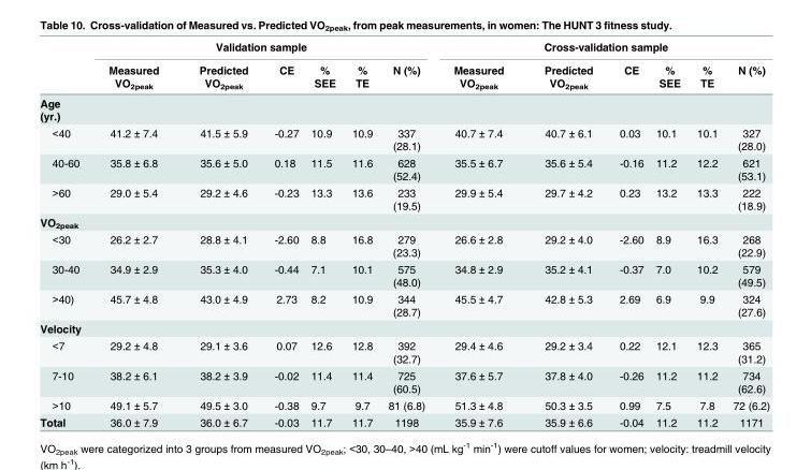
<table><thead><tr><td rowspan="2"></td><td colspan="6">Validation sample</td><td colspan="6">Cross-validation sample</td></tr><tr><td>Measured VO<sub>2peak</sub></td><td>Predicted VO<sub>2peak</sub></td><td>CE</td><td>% SEE</td><td>% TE</td><td>N (%)</td><td>Measured VO<sub>2peak</sub></td><td>Predicted VO<sub>2peak</sub></td><td>CE</td><td>% SEE</td><td>% TE</td><td>N (%)</td></tr></thead><tbody><tr><td colspan="13">Age (yr.)</td></tr><tr><td>&lt;40</td><td>41.2 ± 7.4</td><td>41.5 ± 5.9</td><td>-0.27</td><td>10.9</td><td>10.9</td><td>337 (28.1)</td><td>40.7 ± 7.4</td><td>40.7 ± 6.1</td><td>0.03</td><td>10.1</td><td>10.1</td><td>327 (28.0)</td></tr><tr><td>40-60</td><td>35.8 ± 6.8</td><td>35.6 ± 5.0</td><td>0.18</td><td>11.5</td><td>11.6</td><td>628 (52.4)</td><td>35.5 ± 6.7</td><td>35.6 ± 5.4</td><td>-0.16</td><td>11.2</td><td>12.2</td><td>621 (53.1)</td></tr><tr><td>&gt;60</td><td>29.0 ± 5.4</td><td>29.2 ± 4.6</td><td>-0.23</td><td>13.3</td><td>13.6</td><td>233 (19.5)</td><td>29.9 ± 5.4</td><td>29.7 ± 4.2</td><td>0.23</td><td>13.2</td><td>13.3</td><td>222 (18.9)</td></tr><tr><td colspan="13">VO<sub>2peak</sub></td></tr><tr><td>&lt;30</td><td>26.2 ± 2.7</td><td>28.8 ± 4.1</td><td>-2.60</td><td>8.8</td><td>16.8</td><td>279 (23.3)</td><td>26.6 ± 2.8</td><td>29.2 ± 4.0</td><td>-2.60</td><td>8.9</td><td>16.3</td><td>268 (22.9)</td></tr><tr><td>30-40</td><td>34.9 ± 2.9</td><td>35.3 ± 4.0</td><td>-0.44</td><td>7.1</td><td>10.1</td><td>575 (48.0)</td><td>34.8 ± 2.9</td><td>35.2 ± 4.1</td><td>-0.37</td><td>7.0</td><td>10.2</td><td>579 (49.5)</td></tr><tr><td>&gt;40)</td><td>45.7 ± 4.8</td><td>43.0 ± 4.9</td><td>2.73</td><td>8.2</td><td>10.9</td><td>344 (28.7)</td><td>45.5 ± 4.7</td><td>42.8 ± 5.3</td><td>2.69</td><td>6.9</td><td>9.9</td><td>324 (27.6)</td></tr><tr><td colspan="13">Velocity</td></tr><tr><td>&lt;7</td><td>29.2 ± 4.8</td><td>29.1 ± 3.6</td><td>0.07</td><td>12.6</td><td>12.8</td><td>392 (32.7)</td><td>29.4 ± 4.6</td><td>29.2 ± 3.4</td><td>0.22</td><td>12.1</td><td>12.3</td><td>365 (31.2)</td></tr><tr><td>7-10</td><td>38.2 ± 6.1</td><td>38.2 ± 3.9</td><td>-0.02</td><td>11.4</td><td>11.4</td><td>725 (60.5)</td><td>37.6 ± 5.7</td><td>37.8 ± 4.0</td><td>-0.26</td><td>11.2</td><td>11.2</td><td>734 (62.6)</td></tr><tr><td>&gt;10</td><td>49.1 ± 5.7</td><td>49.5 ± 3.0</td><td>-0.38</td><td>9.7</td><td>9.7</td><td>81 (6.8)</td><td>51.3 ± 4.8</td><td>50.3 ± 3.5</td><td>0.99</td><td>7.5</td><td>7.8</td><td>72 (6.2)</td></tr><tr><td>Total</td><td>36.0 ± 7.9</td><td>36.0 ± 6.7</td><td>-0.03</td><td>11.7</td><td>11.7</td><td>1198</td><td>35.9 ± 7.6</td><td>35.9 ± 6.6</td><td>-0.04</td><td>11.2</td><td>11.2</td><td>1171</td></tr></tbody></table>